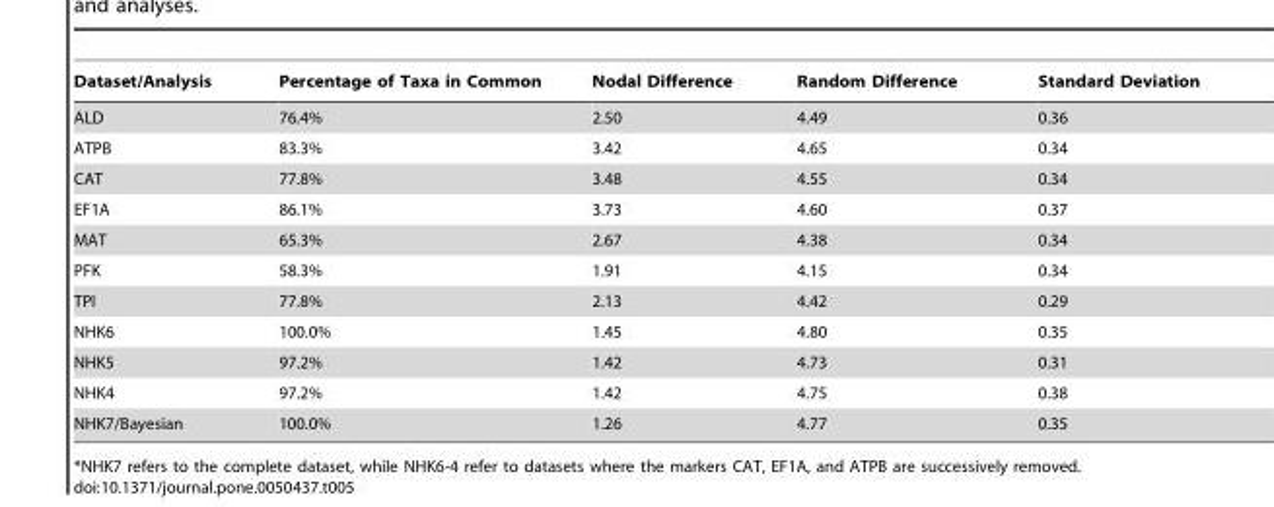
<table><thead><tr><td>Dataset/Analysis</td><td>Percentage of Taxa in Common</td><td>Nodal Difference</td><td>Random Difference</td><td>Standard Deviation</td></tr></thead><tbody><tr><td>ALD</td><td>76.4%</td><td>2.50</td><td>4.49</td><td>0.36</td></tr><tr><td>ATPB</td><td>83.3%</td><td>3.42</td><td>4.65</td><td>0.34</td></tr><tr><td>CAT</td><td>77.8%</td><td>3.48</td><td>4.55</td><td>0.34</td></tr><tr><td>EF1A</td><td>86.1%</td><td>3.73</td><td>4.60</td><td>0.37</td></tr><tr><td>MAT</td><td>65.3%</td><td>2.67</td><td>4.38</td><td>0.34</td></tr><tr><td>PFK</td><td>58.3%</td><td>1.91</td><td>4.15</td><td>0.34</td></tr><tr><td>TPI</td><td>77.8%</td><td>2.13</td><td>4.42</td><td>0.29</td></tr><tr><td>NHK6</td><td>100.0%</td><td>1.45</td><td>4.80</td><td>0.35</td></tr><tr><td>NHK5</td><td>97.2%</td><td>1.42</td><td>4.73</td><td>0.31</td></tr><tr><td>NHK4</td><td>97.2%</td><td>1.42</td><td>4.75</td><td>0.38</td></tr><tr><td>NHK7/Bayesian</td><td>100.0%</td><td>1.26</td><td>4.77</td><td>0.35</td></tr></tbody></table>